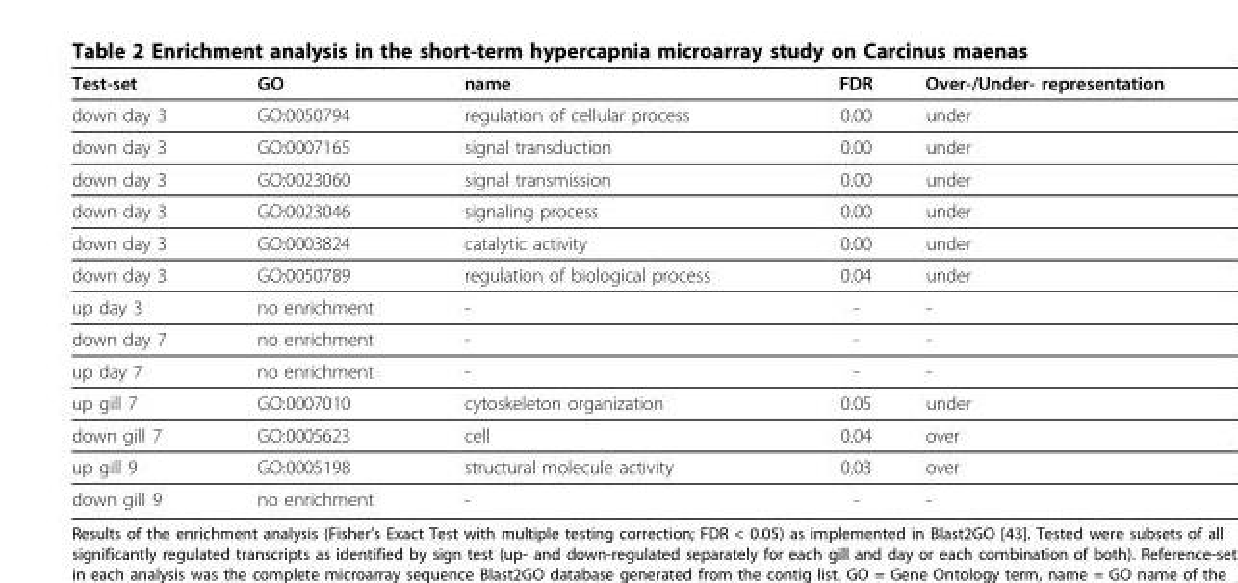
<table><thead><tr><td>Test-set</td><td>GO</td><td>name</td><td>FDR</td><td>Over-/Under- representation</td></tr></thead><tbody><tr><td>down day 3</td><td>GO:0050794</td><td>regulation of cellular process</td><td>0.00</td><td>under</td></tr><tr><td>down day 3</td><td>GO:0007165</td><td>signal transduction</td><td>0.00</td><td>under</td></tr><tr><td>down day 3</td><td>GO:0023060</td><td>signal transmission</td><td>0.00</td><td>under</td></tr><tr><td>down day 3</td><td>GO:0023046</td><td>signaling process</td><td>0.00</td><td>under</td></tr><tr><td>down day 3</td><td>GO:0003824</td><td>catalytic activity</td><td>0.00</td><td>under</td></tr><tr><td>down day 3</td><td>GO:0050789</td><td>regulation of biological process</td><td>0.04</td><td>under</td></tr><tr><td>up day 3</td><td>no enrichment</td><td>-</td><td>-</td><td>-</td></tr><tr><td>down day 7</td><td>no enrichment</td><td>-</td><td>-</td><td>-</td></tr><tr><td>up day 7</td><td>no enrichment</td><td>-</td><td>-</td><td>-</td></tr><tr><td>up gill 7</td><td>GO:0007010</td><td>cytoskeleton organization</td><td>0.05</td><td>under</td></tr><tr><td>down gill 7</td><td>GO:0005623</td><td>cell</td><td>0.04</td><td>over</td></tr><tr><td>up gill 9</td><td>GO:0005198</td><td>structural molecule activity</td><td>0.03</td><td>over</td></tr><tr><td>down gill 9</td><td>no enrichment</td><td>-</td><td>-</td><td>-</td></tr></tbody></table>